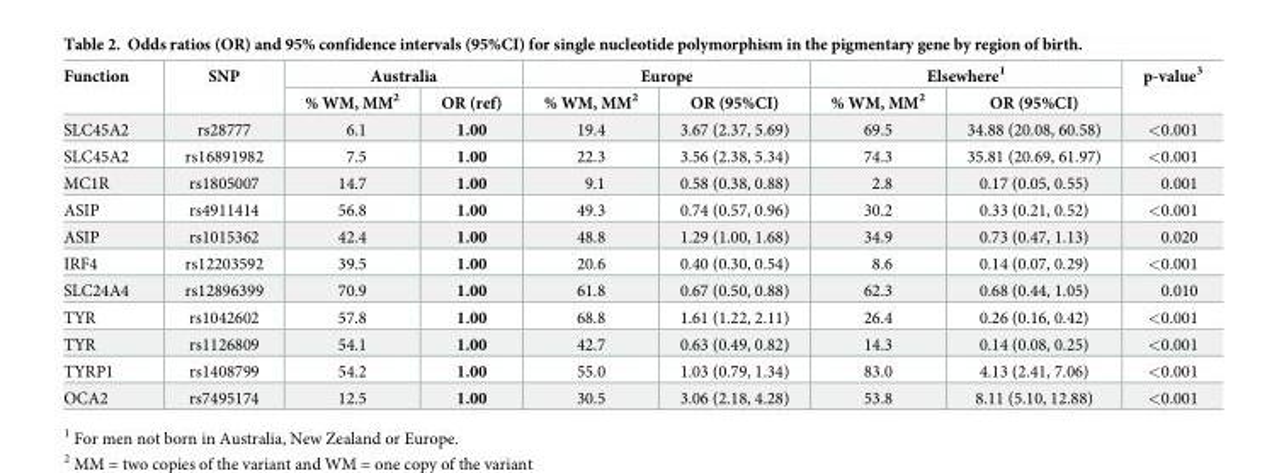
<table><thead><tr><td rowspan="2">Function</td><td rowspan="2">SNP</td><td colspan="2">Australia</td><td colspan="2">Europe</td><td colspan="2">Elsewhere<sup>1</sup></td><td rowspan="2">p-value<sup>3</sup></td></tr><tr><td>% WM, MM<sup>2</sup></td><td>OR (ref)</td><td>% WM, MM<sup>2</sup></td><td>OR (95%CI)</td><td>% WM, MM<sup>2</sup></td><td>OR (95%CI)</td></tr></thead><tbody><tr><td>SLC45A2</td><td>rs28777</td><td>6.1</td><td>1.00</td><td>19.4</td><td>3.67 (2.37, 5.69)</td><td>69.5</td><td>34.88 (20.08, 60.58)</td><td>&lt;0.001</td></tr><tr><td>SLC45A2</td><td>rs16891982</td><td>7.5</td><td>1.00</td><td>22.3</td><td>3.56 (2.38, 5.34)</td><td>74.3</td><td>35.81 (20.69, 61.97)</td><td>&lt;0.001</td></tr><tr><td>MC1R</td><td>rs1805007</td><td>14.7</td><td>1.00</td><td>9.1</td><td>0.58 (0.38, 0.88)</td><td>2.8</td><td>0.17 (0.05, 0.55)</td><td>0.001</td></tr><tr><td>ASIP</td><td>rs4911414</td><td>56.8</td><td>1.00</td><td>49.3</td><td>0.74 (0.57, 0.96)</td><td>30.2</td><td>0.33 (0.21, 0.52)</td><td>&lt;0.001</td></tr><tr><td>ASIP</td><td>rs1015362</td><td>42.4</td><td>1.00</td><td>48.8</td><td>1.29 (1.00, 1.68)</td><td>34.9</td><td>0.73 (0.47, 1.13)</td><td>0.020</td></tr><tr><td>IRF4</td><td>rs12203592</td><td>39.5</td><td>1.00</td><td>20.6</td><td>0.40 (0.30, 0.54)</td><td>8.6</td><td>0.14 (0.07, 0.29)</td><td>&lt;0.001</td></tr><tr><td>SLC24A4</td><td>rs12896399</td><td>70.9</td><td>1.00</td><td>61.8</td><td>0.67 (0.50, 0.88)</td><td>62.3</td><td>0.68 (0.44, 1.05)</td><td>0.010</td></tr><tr><td>TYR</td><td>rs1042602</td><td>57.8</td><td>1.00</td><td>68.8</td><td>1.61 (1.22, 2.11)</td><td>26.4</td><td>0.26 (0.16, 0.42)</td><td>&lt;0.001</td></tr><tr><td>TYR</td><td>rs1126809</td><td>54.1</td><td>1.00</td><td>42.7</td><td>0.63 (0.49, 0.82)</td><td>14.3</td><td>0.14 (0.08, 0.25)</td><td>&lt;0.001</td></tr><tr><td>TYRP1</td><td>rs1408799</td><td>54.2</td><td>1.00</td><td>55.0</td><td>1.03 (0.79, 1.34)</td><td>83.0</td><td>4.13 (2.41, 7.06)</td><td>&lt;0.001</td></tr><tr><td>OCA2</td><td>rs7495174</td><td>12.5</td><td>1.00</td><td>30.5</td><td>3.06 (2.18, 4.28)</td><td>53.8</td><td>8.11 (5.10, 12.88)</td><td>&lt;0.001</td></tr></tbody></table>